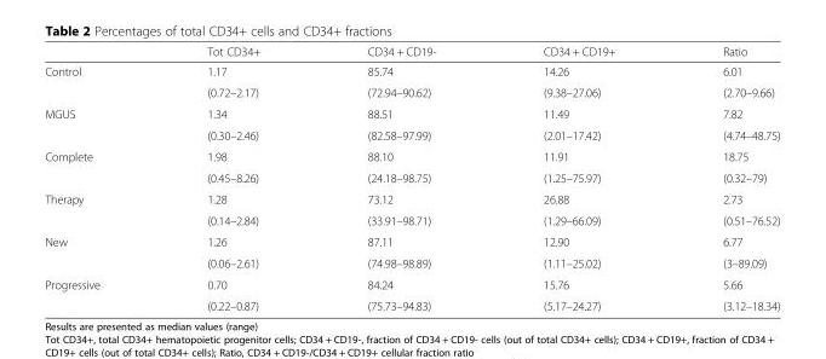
<table><thead><tr><td></td><td>Tot CD34+</td><td>CD34 + CD19-</td><td>CD34 + CD19+</td><td>Ratio</td></tr></thead><tbody><tr><td rowspan="2">Control</td><td>1.17</td><td>85.74</td><td>14.26</td><td>6.01</td></tr><tr><td>(0.72–2.17)</td><td>(72.94–90.62)</td><td>(9.38–27.06)</td><td>(2.70–9.66)</td></tr><tr><td rowspan="2">MGUS</td><td>1.34</td><td>88.51</td><td>11.49</td><td>7.82</td></tr><tr><td>(0.30–2.46)</td><td>(82.58–97.99)</td><td>(2.01–17.42)</td><td>(4.74–48.75)</td></tr><tr><td rowspan="2">Complete</td><td>1.98</td><td>88.10</td><td>11.91</td><td>18.75</td></tr><tr><td>(0.45–8.26)</td><td>(24.18–98.75)</td><td>(1.25–75.97)</td><td>(0.32–79)</td></tr><tr><td rowspan="2">Therapy</td><td>1.28</td><td>73.12</td><td>26.88</td><td>2.73</td></tr><tr><td>(0.14–2.84)</td><td>(33.91–98.71)</td><td>(1.29–66.09)</td><td>(0.51–76.52)</td></tr><tr><td rowspan="2">New</td><td>1.26</td><td>87.11</td><td>12.90</td><td>6.77</td></tr><tr><td>(0.06–2.61)</td><td>(74.98–98.89)</td><td>(1.11–25.02)</td><td>(3–89.09)</td></tr><tr><td rowspan="2">Progressive</td><td>0.70</td><td>84.24</td><td>15.76</td><td>5.66</td></tr><tr><td>(0.22–0.87)</td><td>(75.73–94.83)</td><td>(5.17–24.27)</td><td>(3.12–18.34)</td></tr></tbody></table>